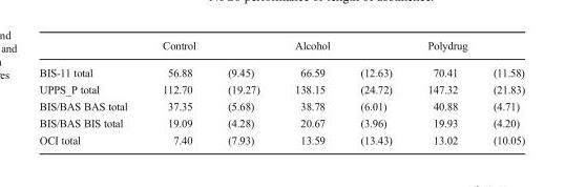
<table><thead><tr><td rowspan="2">BIS-11 total</td><td colspan="2">Control</td><td colspan="2">Alcohol</td><td colspan="2">Polydrug</td></tr><tr><td>56.88</td><td>(9.45)</td><td>66.59</td><td>(12.63)</td><td>70.41</td><td>(11.58)</td></tr></thead><tbody><tr><td>UPPS_P total</td><td>112.70</td><td>(19.27)</td><td>138.15</td><td>(24.72)</td><td>147.32</td><td>(21.83)</td></tr><tr><td>BIS/BAS BAS total</td><td>37.35</td><td>(5.68)</td><td>38.78</td><td>(6.01)</td><td>40.88</td><td>(4.71)</td></tr><tr><td>BIS/BAS BIS total</td><td>19.09</td><td>(4.28)</td><td>20.67</td><td>(3.96)</td><td>19.93</td><td>(4.20)</td></tr><tr><td>OCI total</td><td>7.40</td><td>(7.93)</td><td>13.59</td><td>(13.43)</td><td>13.02</td><td>(10.05)</td></tr></tbody></table>